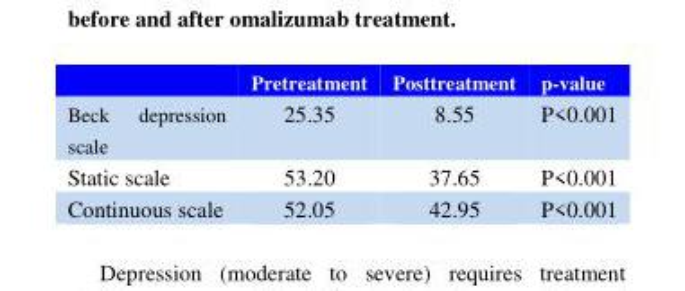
<table><thead><tr><td></td><td>Pretreatment</td><td>Posttreatment</td><td>p-value</td></tr></thead><tbody><tr><td>Beck depression scale</td><td>25.35</td><td>8.55</td><td>P&lt;0.001</td></tr><tr><td>Static scale</td><td>53.20</td><td>37.65</td><td>P&lt;0.001</td></tr><tr><td>Continuous scale</td><td>52.05</td><td>42.95</td><td>P&lt;0.001</td></tr></tbody></table>